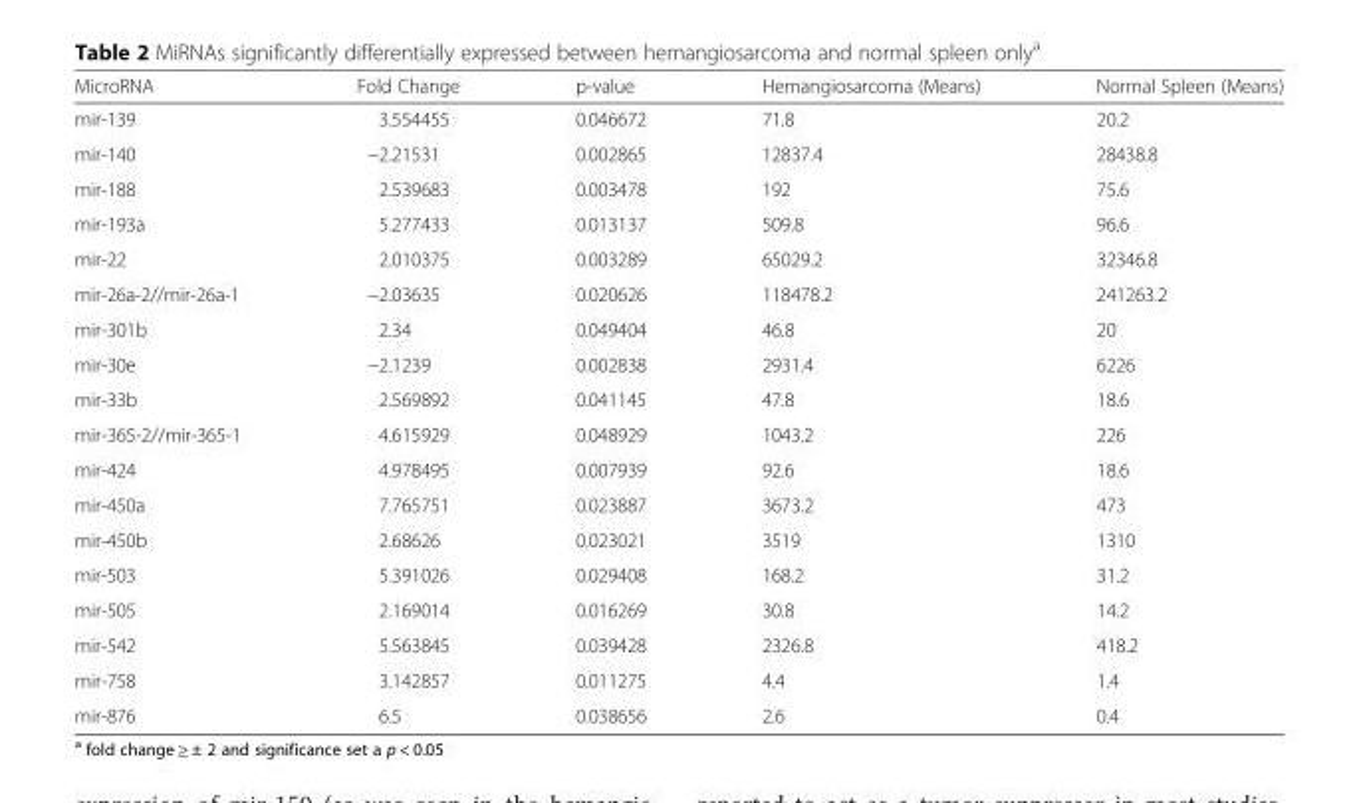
<table><thead><tr><td>MicroRNA</td><td>Fold Change</td><td>p-value</td><td>Hemangiosarcoma (Means)</td><td>Normal Spleen (Means)</td></tr></thead><tbody><tr><td>mir-139</td><td>3.554455</td><td>0.046672</td><td>71.8</td><td>20.2</td></tr><tr><td>mir-140</td><td>−2.21531</td><td>0.002865</td><td>12837.4</td><td>28438.8</td></tr><tr><td>mir-188</td><td>2.539683</td><td>0.003478</td><td>192</td><td>75.6</td></tr><tr><td>mir-193a</td><td>5.277433</td><td>0.013137</td><td>509.8</td><td>96.6</td></tr><tr><td>mir-22</td><td>2.010375</td><td>0.003289</td><td>65029.2</td><td>32346.8</td></tr><tr><td>mir-26a-2//mir-26a-1</td><td>−2.03635</td><td>0.020626</td><td>118478.2</td><td>241263.2</td></tr><tr><td>mir-301b</td><td>2.34</td><td>0.049404</td><td>46.8</td><td>20</td></tr><tr><td>mir-30e</td><td>−2.1239</td><td>0.002838</td><td>2931.4</td><td>6226</td></tr><tr><td>mir-33b</td><td>2.569892</td><td>0.041145</td><td>47.8</td><td>18.6</td></tr><tr><td>mir-365-2//mir-365-1</td><td>4.615929</td><td>0.048929</td><td>1043.2</td><td>226</td></tr><tr><td>mir-424</td><td>4.978495</td><td>0.007939</td><td>92.6</td><td>18.6</td></tr><tr><td>mir-450a</td><td>7.765751</td><td>0.023887</td><td>3673.2</td><td>473</td></tr><tr><td>mir-450b</td><td>2.68626</td><td>0.023021</td><td>3519</td><td>1310</td></tr><tr><td>mir-503</td><td>5.391026</td><td>0.029408</td><td>168.2</td><td>31.2</td></tr><tr><td>mir-505</td><td>2.169014</td><td>0.016269</td><td>30.8</td><td>14.2</td></tr><tr><td>mir-542</td><td>5.563845</td><td>0.039428</td><td>2326.8</td><td>418.2</td></tr><tr><td>mir-758</td><td>3.142857</td><td>0.011275</td><td>4.4</td><td>1.4</td></tr><tr><td>mir-876</td><td>6.5</td><td>0.038656</td><td>2.6</td><td>0.4</td></tr></tbody></table>